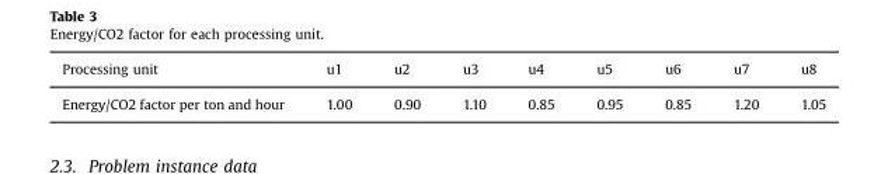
<table><thead><tr><td>Processing unit</td><td>u1</td><td>u2</td><td>u3</td><td>u4</td><td>u5</td><td>u6</td><td>u7</td><td>u8</td></tr></thead><tbody><tr><td>Energy/CO2 factor per ton and hour</td><td>1.00</td><td>0.90</td><td>1.10</td><td>0.85</td><td>0.95</td><td>0.85</td><td>1.20</td><td>1.05</td></tr></tbody></table>